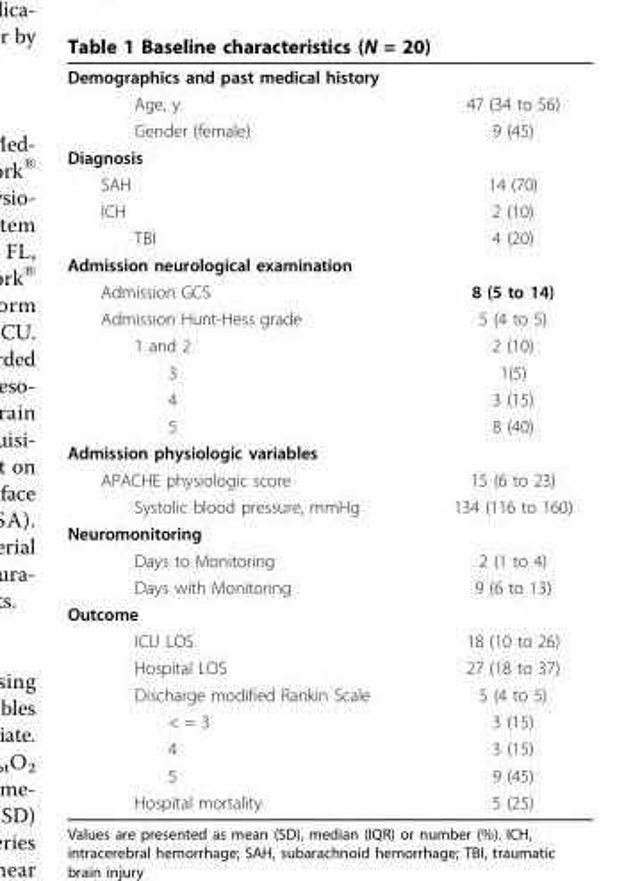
<table><tbody><tr><td colspan="2">Demographics and past medical history</td></tr><tr><td>Age, y</td><td>47 (34 to 56)</td></tr><tr><td>Gender (female)</td><td>9 (45)</td></tr><tr><td colspan="2">Diagnosis</td></tr><tr><td>SAH</td><td>14 (70)</td></tr><tr><td>ICH</td><td>2 (10)</td></tr><tr><td>TBI</td><td>4 (20)</td></tr><tr><td colspan="2">Admission neurological examination</td></tr><tr><td>Admission GCS</td><td>8 (5 to 14)</td></tr><tr><td>Admission Hunt-Hess grade</td><td>5 (4 to 5)</td></tr><tr><td>1 and 2</td><td>2 (10)</td></tr><tr><td>3</td><td>1(5)</td></tr><tr><td>4</td><td>3 (15)</td></tr><tr><td>5</td><td>8 (40)</td></tr><tr><td colspan="2">Admission physiologic variables</td></tr><tr><td>APACHE physiologic score</td><td>15 (6 to 23)</td></tr><tr><td>Systolic blood pressure, mmHg</td><td>134 (116 to 160)</td></tr><tr><td colspan="2">Neuromonitoring</td></tr><tr><td>Days to Monitoring</td><td>2 (1 to 4)</td></tr><tr><td>Days with Monitoring</td><td>9 (6 to 13)</td></tr><tr><td colspan="2">Outcome</td></tr><tr><td>ICU LOS</td><td>18 (10 to 26)</td></tr><tr><td>Hospital LOS</td><td>27 (18 to 37)</td></tr><tr><td>Discharge modified Rankin Scale</td><td>5 (4 to 5)</td></tr><tr><td>&lt; = 3</td><td>3 (15)</td></tr><tr><td>4</td><td>3 (15)</td></tr><tr><td>5</td><td>9 (45)</td></tr><tr><td>Hospital mortality</td><td>5 (25)</td></tr></tbody></table>